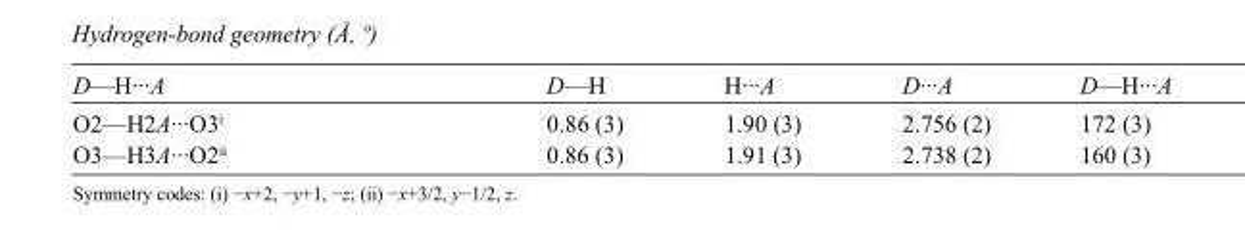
<table><tbody><tr><td>D—H···A</td><td>D—H</td><td>H···A</td><td>D···A</td><td>D—H···A</td></tr><tr><td>O2—H2A···O3<sup>i</sup></td><td>0.86 (3)</td><td>1.90 (3)</td><td>2.756 (2)</td><td>172 (3)</td></tr><tr><td>O3—H3A···O2<sup>ii</sup></td><td>0.86 (3)</td><td>1.91 (3)</td><td>2.738 (2)</td><td>160 (3)</td></tr></tbody></table>